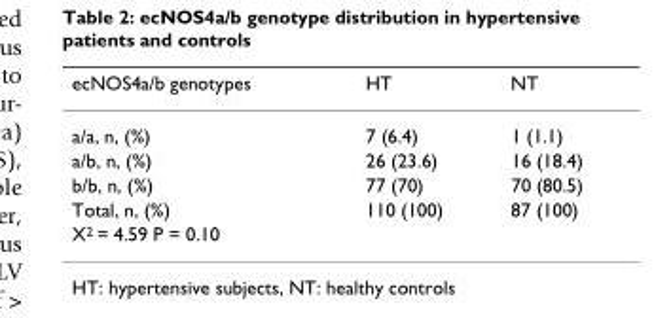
<table><thead><tr><td>ecNOS4a/b genotypes</td><td>HT</td><td>NT</td></tr></thead><tbody><tr><td>a/a, n, (%)</td><td>7 (6.4)</td><td>1 (1.1)</td></tr><tr><td>a/b, n, (%)</td><td>26 (23.6)</td><td>16 (18.4)</td></tr><tr><td>b/b, n, (%)</td><td>77 (70)</td><td>70 (80.5)</td></tr><tr><td>Total, n, (%)</td><td>110 (100)</td><td>87 (100)</td></tr><tr><td colspan="3">X<sup>2</sup> = 4.59 P = 0.10</td></tr></tbody></table>